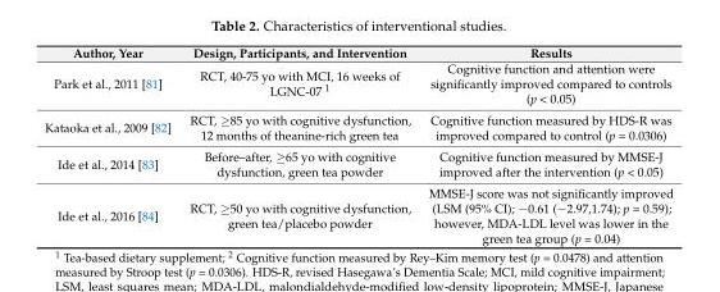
<table><thead><tr><td>Author, Year</td><td>Design, Participants, and Intervention</td><td>Results</td></tr></thead><tbody><tr><td>Park et al., 2011 [81]</td><td>RCT, 40-75 yo with MCI, 16 weeks of LGNC-07 <sup>1</sup></td><td>Cognitive function and attention were significantly improved compared to controls (p &lt; 0.05)</td></tr><tr><td>Kataoka et al., 2009 [82]</td><td>RCT, ≥85 yo with cognitive dysfunction, 12 months of theanine-rich green tea</td><td>Cognitive function measured by HDS-R was improved compared to control (p = 0.0306)</td></tr><tr><td>Ide et al., 2014 [83]</td><td>Before–after, ≥65 yo with cognitive dysfunction, green tea powder</td><td>Cognitive function measured by MMSE-J improved after the intervention (p &lt; 0.05)</td></tr><tr><td>Ide et al., 2016 [84]</td><td>RCT, ≥50 yo with cognitive dysfunction, green tea/placebo powder</td><td>MMSE-J score was not significantly improved (LSM (95% CI); −0.61 (−2.97,1.74); p = 0.59); however, MDA-LDL level was lower in the green tea group (p = 0.04)</td></tr></tbody></table>